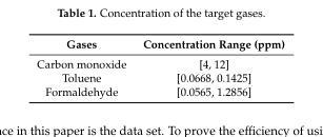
<table><thead><tr><td>Gases</td><td>Concentration Range (ppm)</td></tr></thead><tbody><tr><td>Carbon monoxide</td><td>[4, 12]</td></tr><tr><td>Toluene</td><td>[0.0668, 0.1425]</td></tr><tr><td>Formaldehyde</td><td>[0.0565, 1.2856]</td></tr></tbody></table>